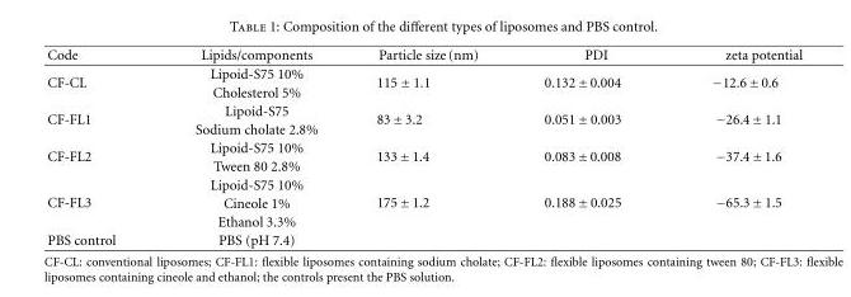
<table><thead><tr><td>Code</td><td>Lipids/components</td><td>Particle size (nm)</td><td>PDI</td><td>zeta potential</td></tr></thead><tbody><tr><td rowspan="2">CF-CL</td><td>Lipoid-S75 10%</td><td rowspan="2">115 ± 1.1</td><td rowspan="2">0.132 ±0.004</td><td rowspan="2">−12.6 ±0.6</td></tr><tr><td>Cholesterol 5%</td></tr><tr><td rowspan="2">CF-FL1</td><td>Lipoid-S75</td><td rowspan="2">83 ±3.2</td><td rowspan="2">0.051 ± 0.003</td><td rowspan="2">−26.4 ± 1.1</td></tr><tr><td>Sodium cholate 2.8%</td></tr><tr><td rowspan="2">CF-FL2</td><td>Lipoid-S75 10%</td><td rowspan="2">133 ± 1.4</td><td rowspan="2">0.083 ±0.008</td><td rowspan="2">−37.4 ±1.6</td></tr><tr><td>Tween 80 2.8%</td></tr><tr><td rowspan="3">CF-FL3</td><td>Lipoid-S75 10%</td><td rowspan="3">175 ± 1.2</td><td rowspan="3">0.188 ± 0.025</td><td rowspan="3">−65.3 ± 1.5</td></tr><tr><td>Cineole 1%</td></tr><tr><td>Ethanol 3.3%</td></tr><tr><td>PBS control</td><td>PBS (pH 7.4)</td><td></td><td></td><td></td></tr></tbody></table>